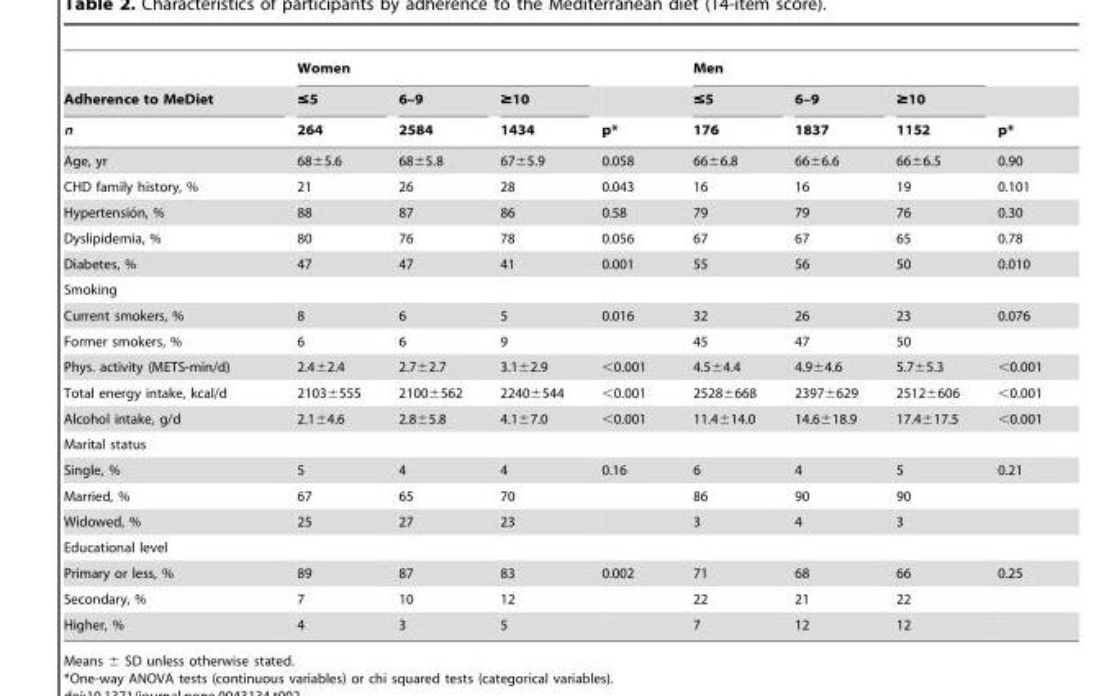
<table><thead><tr><td rowspan="3">Adherence to MeDiet n</td><td colspan="3">Women</td><td rowspan="3">p*</td><td colspan="3">Men</td><td rowspan="3">p*</td></tr><tr><td rowspan="2">≤5 264</td><td rowspan="2">6–9 2584</td><td rowspan="2">≥10 1434</td><td rowspan="2">≤5 176</td><td rowspan="2">6–9 1837</td><td rowspan="2">≥10 1152</td></tr><tr></tr></thead><tbody><tr><td>Age, yr</td><td>68±5.6</td><td>68±5.8</td><td>67±5.9</td><td>0.058</td><td>66±6.8</td><td>66±6.6</td><td>66±6.5</td><td>0.90</td></tr><tr><td>CHD family history, %</td><td>21</td><td>26</td><td>28</td><td>0.043</td><td>16</td><td>16</td><td>19</td><td>0.101</td></tr><tr><td>Hypertensio´n, %</td><td>88</td><td>87</td><td>86</td><td>0.58</td><td>79</td><td>79</td><td>76</td><td>0.30</td></tr><tr><td>Dyslipidemia, %</td><td>80</td><td>76</td><td>78</td><td>0.056</td><td>67</td><td>67</td><td>65</td><td>0.78</td></tr><tr><td>Diabetes, %</td><td>47</td><td>47</td><td>41</td><td>0.001</td><td>55</td><td>56</td><td>50</td><td>0.010</td></tr><tr><td colspan="9">Smoking</td></tr><tr><td>Current smokers, %</td><td>8</td><td>6</td><td>5</td><td>0.016</td><td>32</td><td>26</td><td>23</td><td>0.076</td></tr><tr><td>Former smokers, %</td><td>6</td><td>6</td><td>9</td><td></td><td>45</td><td>47</td><td>50</td><td></td></tr><tr><td>Phys. activity (METS-min/d)</td><td>2.4±2.4</td><td>2.7±2.7</td><td>3.1±2.9</td><td>&lt;0.001</td><td>4.5±4.4</td><td>4.9±4.6</td><td>5.7±5.3</td><td>&lt;0.001</td></tr><tr><td>Total energy intake, kcal/d</td><td>2103±555</td><td>2100±562</td><td>2240±544</td><td>&lt;0.001</td><td>2528±668</td><td>2397±629</td><td>2512±606</td><td>&lt;0.001</td></tr><tr><td>Alcohol intake, g/d</td><td>2.1±4.6</td><td>2.8±5.8</td><td>4.1±7.0</td><td>&lt;0.001</td><td>11.4±14.0</td><td>14.6±18.9</td><td>17.4±17.5</td><td>&lt;0.001</td></tr><tr><td colspan="9">Marital status</td></tr><tr><td>Single, %</td><td>5</td><td>4</td><td>4</td><td>0.16</td><td>6</td><td>4</td><td>5</td><td>0.21</td></tr><tr><td>Married, %</td><td>67</td><td>65</td><td>70</td><td></td><td>86</td><td>90</td><td>90</td><td></td></tr><tr><td>Widowed, %</td><td>25</td><td>27</td><td>23</td><td></td><td>3</td><td>4</td><td>3</td><td></td></tr><tr><td colspan="9">Educational level</td></tr><tr><td>Primary or less, %</td><td>89</td><td>87</td><td>83</td><td>0.002</td><td>71</td><td>68</td><td>66</td><td>0.25</td></tr><tr><td>Secondary, %</td><td>7</td><td>10</td><td>12</td><td></td><td>22</td><td>21</td><td>22</td><td></td></tr><tr><td>Higher, %</td><td>4</td><td>3</td><td>5</td><td></td><td>7</td><td>12</td><td>12</td><td></td></tr></tbody></table>